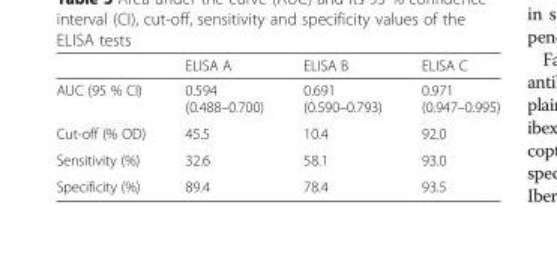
<table><thead><tr><td></td><td>ELISA A</td><td>ELISA B</td><td>ELISA C</td></tr></thead><tbody><tr><td>AUC (95 % CI)</td><td>0.594 (0.488–0.700)</td><td>0.691 (0.590–0.793)</td><td>0.971 (0.947–0.995)</td></tr><tr><td>Cut-off (% OD)</td><td>45.5</td><td>10.4</td><td>92.0</td></tr><tr><td>Sensitivity (%)</td><td>32.6</td><td>58.1</td><td>93.0</td></tr><tr><td>Specificity (%)</td><td>89.4</td><td>78.4</td><td>93.5</td></tr></tbody></table>